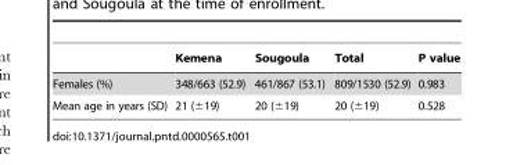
<table><thead><tr><td></td><td>Kemena</td><td>Sougoula</td><td>Total</td><td>P value</td></tr></thead><tbody><tr><td>Females (%)</td><td>348/663 (52.9)</td><td>461/867 (53.1)</td><td>809/1530 (52.9)</td><td>0.983</td></tr><tr><td>Mean age in years (SD)</td><td>21 (±19)</td><td>20 (±19)</td><td>20 (±19)</td><td>0.528</td></tr></tbody></table>